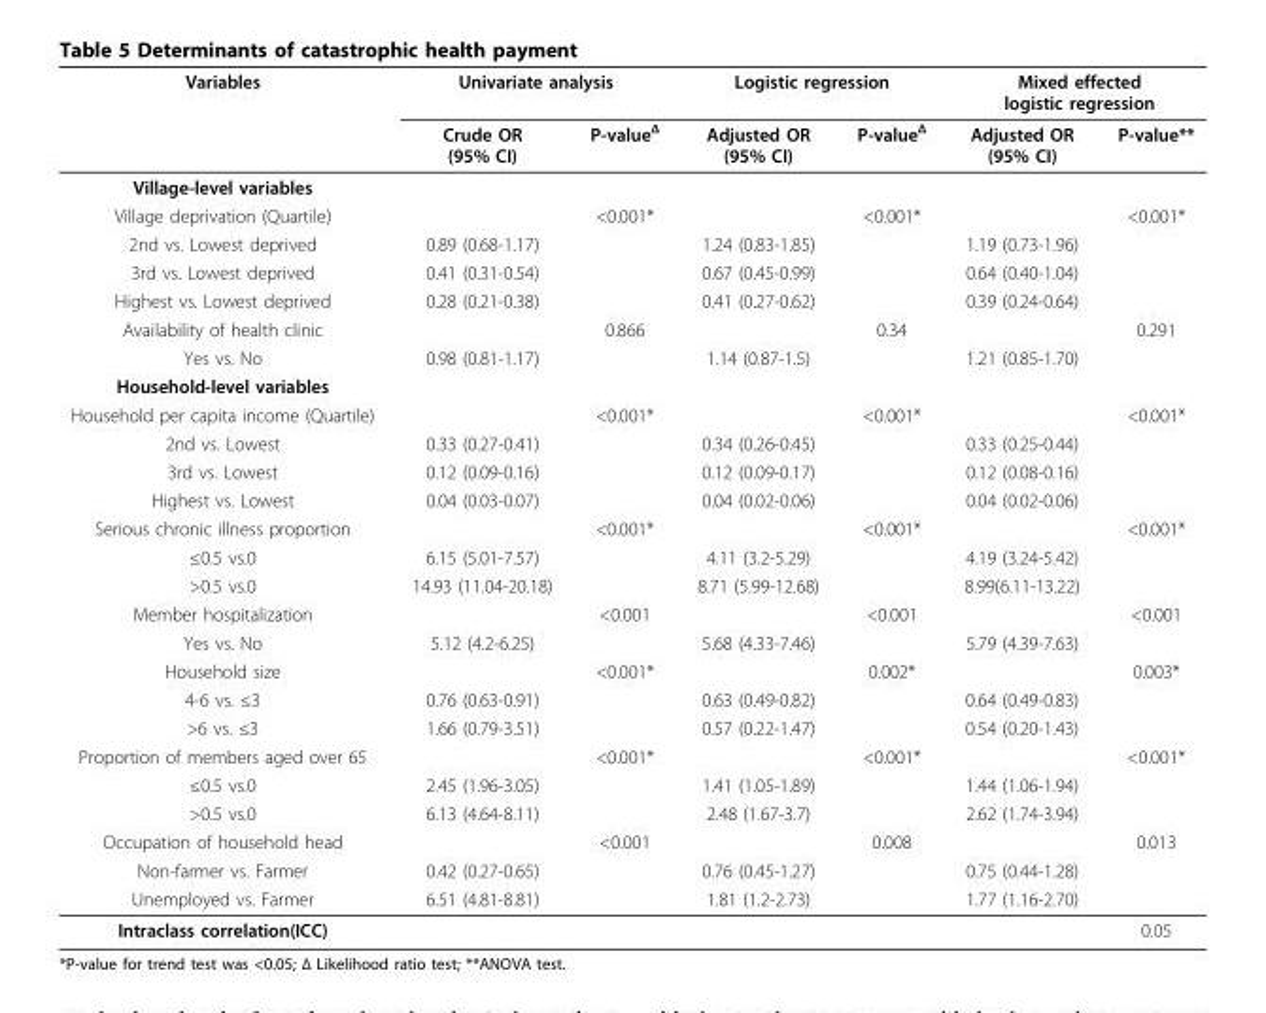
<table><thead><tr><td rowspan="2">Variables</td><td colspan="2">Univariate analysis</td><td colspan="2">Logistic regression</td><td colspan="2">Mixed effected logistic regression</td></tr><tr><td>Crude OR (95% CI)</td><td>P-value<sup>Δ</sup></td><td>Adjusted OR (95% CI)</td><td>P-value<sup>Δ</sup></td><td>Adjusted OR (95% CI)</td><td>P-value**</td></tr></thead><tbody><tr><td colspan="7">Village-level variables</td></tr><tr><td>Village deprivation (Quartile)</td><td></td><td>&lt;0.001*</td><td></td><td>&lt;0.001*</td><td></td><td>&lt;0.001*</td></tr><tr><td>2nd vs. Lowest deprived</td><td>0.89 (0.68-1.17)</td><td></td><td>1.24 (0.83-1.85)</td><td></td><td>1.19 (0.73-1.96)</td><td></td></tr><tr><td>3rd vs. Lowest deprived</td><td>0.41 (0.31-0.54)</td><td></td><td>0.67 (0.45-0.99)</td><td></td><td>0.64 (0.40-1.04)</td><td></td></tr><tr><td>Highest vs. Lowest deprived</td><td>0.28 (0.21-0.38)</td><td></td><td>0.41 (0.27-0.62)</td><td></td><td>0.39 (0.24-0.64)</td><td></td></tr><tr><td>Availability of health clinic</td><td></td><td>0.866</td><td></td><td>0.34</td><td></td><td>0.291</td></tr><tr><td>Yes vs. No</td><td>0.98 (0.81-1.17)</td><td></td><td>1.14 (0.87-1.5)</td><td></td><td>1.21 (0.85-1.70)</td><td></td></tr><tr><td colspan="7">Household-level variables</td></tr><tr><td>Household per capita income (Quartile)</td><td></td><td>&lt;0.001*</td><td></td><td>&lt;0.001*</td><td></td><td>&lt;0.001*</td></tr><tr><td>2nd vs. Lowest</td><td>0.33 (0.27-0.41)</td><td></td><td>0.34 (0.26-0.45)</td><td></td><td>0.33 (0.25-0.44)</td><td></td></tr><tr><td>3rd vs. Lowest</td><td>0.12 (0.09-0.16)</td><td></td><td>0.12 (0.09-0.17)</td><td></td><td>0.12 (0.08-0.16)</td><td></td></tr><tr><td>Highest vs. Lowest</td><td>0.04 (0.03-0.07)</td><td></td><td>0.04 (0.02-0.06)</td><td></td><td>0.04 (0.02-0.06)</td><td></td></tr><tr><td>Serious chronic illness proportion</td><td></td><td>&lt;0.001*</td><td></td><td>&lt;0.001*</td><td></td><td>&lt;0.001*</td></tr><tr><td>≤0.5 vs.0</td><td>6.15 (5.01-7.57)</td><td></td><td>4.11 (3.2-5.29)</td><td></td><td>4.19 (3.24-5.42)</td><td></td></tr><tr><td>&gt;0.5 vs.0</td><td>14.93 (11.04-20.18)</td><td></td><td>8.71 (5.99-12.68)</td><td></td><td>8.99(6.11-13.22)</td><td></td></tr><tr><td>Member hospitalization</td><td></td><td>&lt;0.001</td><td></td><td>&lt;0.001</td><td></td><td>&lt;0.001</td></tr><tr><td>Yes vs. No</td><td>5.12 (4.2-6.25)</td><td></td><td>5.68 (4.33-7.46)</td><td></td><td>5.79 (4.39-7.63)</td><td></td></tr><tr><td>Household size</td><td></td><td>&lt;0.001*</td><td></td><td>0.002*</td><td></td><td>0.003*</td></tr><tr><td>4-6 vs. ≤3</td><td>0.76 (0.63-0.91)</td><td></td><td>0.63 (0.49-0.82)</td><td></td><td>0.64 (0.49-0.83)</td><td></td></tr><tr><td>&gt;6 vs. ≤3</td><td>1.66 (0.79-3.51)</td><td></td><td>0.57 (0.22-1.47)</td><td></td><td>0.54 (0.20-1.43)</td><td></td></tr><tr><td>Proportion of members aged over 65</td><td></td><td>&lt;0.001*</td><td></td><td>&lt;0.001*</td><td></td><td>&lt;0.001*</td></tr><tr><td>≤0.5 vs.0</td><td>2.45 (1.96-3.05)</td><td></td><td>1.41 (1.05-1.89)</td><td></td><td>1.44 (1.06-1.94)</td><td></td></tr><tr><td>&gt;0.5 vs.0</td><td>6.13 (4.64-8.11)</td><td></td><td>2.48 (1.67-3.7)</td><td></td><td>2.62 (1.74-3.94)</td><td></td></tr><tr><td>Occupation of household head</td><td></td><td>&lt;0.001</td><td></td><td>0.008</td><td></td><td>0.013</td></tr><tr><td>Non-farmer vs. Farmer</td><td>0.42 (0.27-0.65)</td><td></td><td>0.76 (0.45-1.27)</td><td></td><td>0.75 (0.44-1.28)</td><td></td></tr><tr><td>Unemployed vs. Farmer</td><td>6.51 (4.81-8.81)</td><td></td><td>1.81 (1.2-2.73)</td><td></td><td>1.77 (1.16-2.70)</td><td></td></tr><tr><td>Intraclass correlation(ICC)</td><td></td><td></td><td></td><td></td><td></td><td>0.05</td></tr></tbody></table>